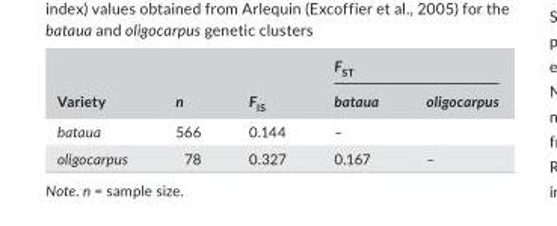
<table><thead><tr><td rowspan="2">Variety</td><td rowspan="2">n</td><td rowspan="2">F<sub>IS</sub></td><td colspan="2">F<sub>ST</sub></td></tr><tr><td>bataua</td><td>oligocarpus</td></tr></thead><tbody><tr><td>bataua</td><td>566</td><td>0.144</td><td>–</td><td></td></tr><tr><td>oligocarpus</td><td>78</td><td>0.327</td><td>0.167</td><td>–</td></tr></tbody></table>